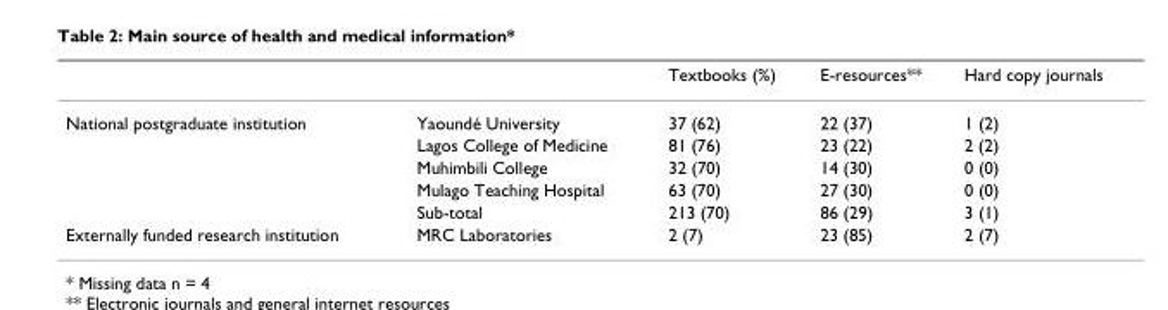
<table><thead><tr><td></td><td></td><td>Textbooks (%)</td><td>E-resources**</td><td>Hard copy journals</td></tr></thead><tbody><tr><td rowspan="5">National postgraduate institution</td><td>Yaoundé University</td><td>37 (62)</td><td>22 (37)</td><td>1 (2)</td></tr><tr><td>Lagos College of Medicine</td><td>81 (76)</td><td>23 (22)</td><td>2 (2)</td></tr><tr><td>Muhimbili College</td><td>32 (70)</td><td>14 (30)</td><td>0 (0)</td></tr><tr><td>Mulago Teaching Hospital</td><td>63 (70)</td><td>27 (30)</td><td>0 (0)</td></tr><tr><td>Sub-total</td><td>213 (70)</td><td>86 (29)</td><td>3 (1)</td></tr><tr><td>Externally funded research institution</td><td>MRC Laboratories</td><td>2 (7)</td><td>23 (85)</td><td>2 (7)</td></tr></tbody></table>